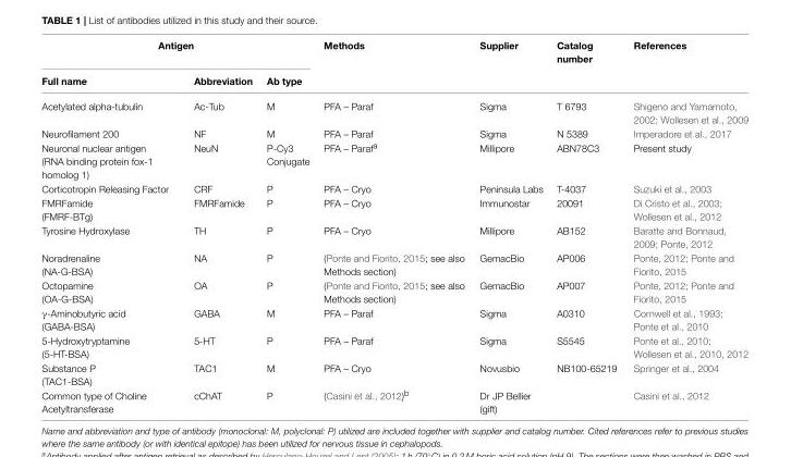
<table><thead><tr><td colspan="3">Antigen</td><td rowspan="2">Methods</td><td rowspan="2">Supplier</td><td rowspan="2">Catalog number</td><td rowspan="2">References</td></tr><tr><td>Full name</td><td>Abbreviation</td><td>Ab type</td></tr></thead><tbody><tr><td>Acetylated alpha-tubulin</td><td>Ac-Tub</td><td>M</td><td>PFA – Paraf</td><td>Sigma</td><td>T 6793</td><td>Shigeno and Yamamoto, 2002; Wollesen et al., 2009</td></tr><tr><td>Neurofilament 200</td><td>NF</td><td>M</td><td>PFA – Paraf</td><td>Sigma</td><td>N 5389</td><td>Imperadore et al., 2017</td></tr><tr><td>Neuronal nuclear antigen (RNA binding protein fox-1 homolog 1)</td><td>NeuN</td><td>P-Cy3 Conjugate</td><td>PFA – Paraf<sup>a</sup></td><td>Millipore</td><td>ABN78C3</td><td>Present study</td></tr><tr><td>Corticotropin Releasing Factor</td><td>CRF</td><td>P</td><td>PFA – Cryo</td><td>Peninsula Labs</td><td>T-4037</td><td>Suzuki et al., 2003</td></tr><tr><td>FMRFamide (FMRF-BTg)</td><td>FMRFamide</td><td>P</td><td>PFA – Cryo</td><td>Immunostar</td><td>20091</td><td>Di Cristo et al., 2003; Wollesen et al., 2012</td></tr><tr><td>Tyrosine Hydroxylase</td><td>TH</td><td>P</td><td>PFA – Cryo</td><td>Millipore</td><td>AB152</td><td>Baratte and Bonnaud, 2009; Ponte, 2012</td></tr><tr><td>Noradrenaline (NA-G-BSA)</td><td>NA</td><td>P</td><td>(Ponte and Fiorito, 2015; see also Methods section)</td><td>GemacBio</td><td>AP006</td><td>Ponte, 2012; Ponte and Fiorito, 2015</td></tr><tr><td>Octopamine (OA-G-BSA)</td><td>OA</td><td>P</td><td>(Ponte and Fiorito, 2015; see also Methods section)</td><td>GemacBio</td><td>AP007</td><td>Ponte, 2012; Ponte and Fiorito, 2015</td></tr><tr><td>γ-Aminobutyric acid (GABA-BSA)</td><td>GABA</td><td>M</td><td>PFA – Paraf</td><td>Sigma</td><td>A0310</td><td>Cornwell et al., 1993; Ponte et al., 2010</td></tr><tr><td>5-Hydroxytryptamine (5-HT-BSA)</td><td>5-HT</td><td>P</td><td>PFA – Paraf</td><td>Sigma</td><td>S5545</td><td>Ponte et al., 2010; Wollesen et al., 2010, 2012</td></tr><tr><td>Substance P (TAC1-BSA)</td><td>TAC1</td><td>M</td><td>PFA – Cryo</td><td>Novusbio</td><td>NB100-65219</td><td>Springer et al., 2004</td></tr><tr><td>Common type of Choline Acetyltransferase</td><td>cChAT</td><td>P</td><td>(Casini et al., 2012)<sup>b</sup></td><td>Dr JP Bellier (gift)</td><td></td><td>Casini et al., 2012</td></tr></tbody></table>